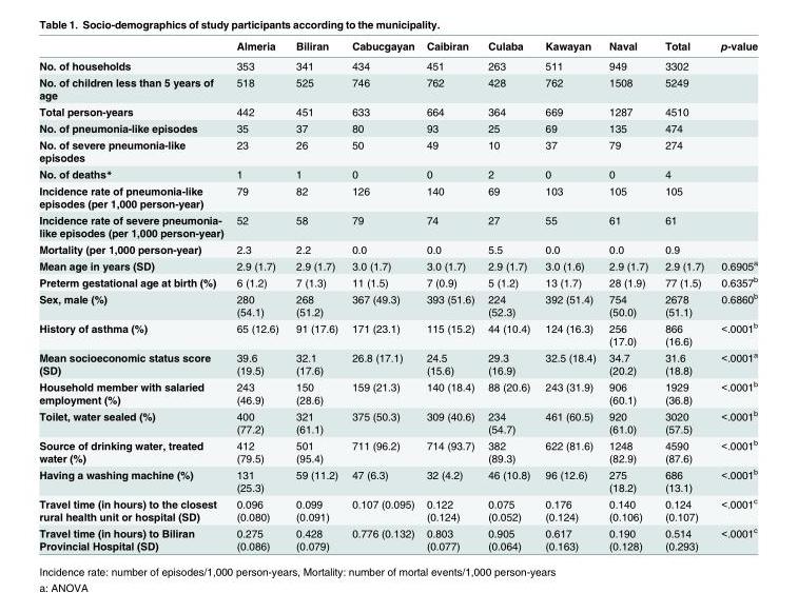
<table><thead><tr><td></td><td>Almeria</td><td>Biliran</td><td>Cabucgayan</td><td>Caibiran</td><td>Culaba</td><td>Kawayan</td><td>Naval</td><td>Total</td><td>p-value</td></tr></thead><tbody><tr><td>No. of households</td><td>353</td><td>341</td><td>434</td><td>451</td><td>263</td><td>511</td><td>949</td><td>3302</td><td></td></tr><tr><td>No. of children less than 5 years of age</td><td>518</td><td>525</td><td>746</td><td>762</td><td>428</td><td>762</td><td>1508</td><td>5249</td><td></td></tr><tr><td>Total person-years</td><td>442</td><td>451</td><td>633</td><td>664</td><td>364</td><td>669</td><td>1287</td><td>4510</td><td></td></tr><tr><td>No. of pneumonia-like episodes</td><td>35</td><td>37</td><td>80</td><td>93</td><td>25</td><td>69</td><td>135</td><td>474</td><td></td></tr><tr><td>No. of severe pneumonia-like episodes</td><td>23</td><td>26</td><td>50</td><td>49</td><td>10</td><td>37</td><td>79</td><td>274</td><td></td></tr><tr><td>No. of deaths*</td><td>1</td><td>1</td><td>0</td><td>0</td><td>2</td><td>0</td><td>0</td><td>4</td><td></td></tr><tr><td>Incidence rate of pneumonia-like episodes (per 1,000 person-year)</td><td>79</td><td>82</td><td>126</td><td>140</td><td>69</td><td>103</td><td>105</td><td>105</td><td></td></tr><tr><td>Incidence rate of severe pneumonia- like episodes (per 1,000 person-year)</td><td>52</td><td>58</td><td>79</td><td>74</td><td>27</td><td>55</td><td>61</td><td>61</td><td></td></tr><tr><td>Mortality (per 1,000 person-year)</td><td>2.3</td><td>2.2</td><td>0.0</td><td>0.0</td><td>5.5</td><td>0.0</td><td>0.0</td><td>0.9</td><td></td></tr><tr><td>Mean age in years (SD)</td><td>2.9 (1.7)</td><td>2.9 (1.7)</td><td>3.0 (1.7)</td><td>3.0 (1.7)</td><td>2.9 (1.7)</td><td>3.0 (1.6)</td><td>2.9 (1.7)</td><td>2.9 (1.7)</td><td>0.6905<sup>a</sup></td></tr><tr><td>Preterm gestational age at birth (%)</td><td>6 (1.2)</td><td>7 (1.3)</td><td>11 (1.5)</td><td>7 (0.9)</td><td>5 (1.2)</td><td>13 (1.7)</td><td>28 (1.9)</td><td>77 (1.5)</td><td>0.6357<sup>b</sup></td></tr><tr><td>Sex, male (%)</td><td>280 (54.1)</td><td>268 (51.2)</td><td>367 (49.3)</td><td>393 (51.6)</td><td>224 (52.3)</td><td>392 (51.4)</td><td>754 (50.0)</td><td>2678 (51.1)</td><td>0.6860<sup>b</sup></td></tr><tr><td>History of asthma (%)</td><td>65 (12.6)</td><td>91 (17.6)</td><td>171 (23.1)</td><td>115 (15.2)</td><td>44 (10.4)</td><td>124 (16.3)</td><td>256 (17.0)</td><td>866 (16.6)</td><td>&lt;.0001<sup>b</sup></td></tr><tr><td>Mean socioeconomic status score (SD)</td><td>39.6 (19.5)</td><td>32.1 (17.6)</td><td>26.8 (17.1)</td><td>24.5 (15.6)</td><td>29.3 (16.9)</td><td>32.5 (18.4)</td><td>34.7 (20.2)</td><td>31.6 (18.8)</td><td>&lt;.0001<sup>a</sup></td></tr><tr><td>Household member with salaried employment (%)</td><td>243 (46.9)</td><td>150 (28.6)</td><td>159 (21.3)</td><td>140 (18.4)</td><td>88 (20.6)</td><td>243 (31.9)</td><td>906 (60.1)</td><td>1929 (36.8)</td><td>&lt;.0001<sup>b</sup></td></tr><tr><td>Toilet, water sealed (%)</td><td>400 (77.2)</td><td>321 (61.1)</td><td>375 (50.3)</td><td>309 (40.6)</td><td>234 (54.7)</td><td>461 (60.5)</td><td>920 (61.0)</td><td>3020 (57.5)</td><td>&lt;.0001<sup>b</sup></td></tr><tr><td>Source of drinking water, treated water (%)</td><td>412 (79.5)</td><td>501 (95.4)</td><td>711 (96.2)</td><td>714 (93.7)</td><td>382 (89.3)</td><td>622 (81.6)</td><td>1248 (82.9)</td><td>4590 (87.6)</td><td>&lt;.0001<sup>b</sup></td></tr><tr><td>Having a washing machine (%)</td><td>131 (25.3)</td><td>59 (11.2)</td><td>47 (6.3)</td><td>32 (4.2)</td><td>46 (10.8)</td><td>96 (12.6)</td><td>275 (18.2)</td><td>686 (13.1)</td><td>&lt;.0001<sup>b</sup></td></tr><tr><td>Travel time (in hours) to the closest rural health unit or hospital (SD)</td><td>0.096 (0.080)</td><td>0.099 (0.091)</td><td>0.107 (0.095)</td><td>0.122 (0.124)</td><td>0.075 (0.052)</td><td>0.176 (0.124)</td><td>0.140 (0.106)</td><td>0.124 (0.107)</td><td>&lt;.0001<sup>c</sup></td></tr><tr><td>Travel time (in hours) to Biliran Provincial Hospital (SD)</td><td>0.275 (0.086)</td><td>0.428 (0.079)</td><td>0.776 (0.132)</td><td>0.803 (0.077)</td><td>0.905 (0.064)</td><td>0.617 (0.163)</td><td>0.190 (0.128)</td><td>0.514 (0.293)</td><td>&lt;.0001<sup>c</sup></td></tr></tbody></table>